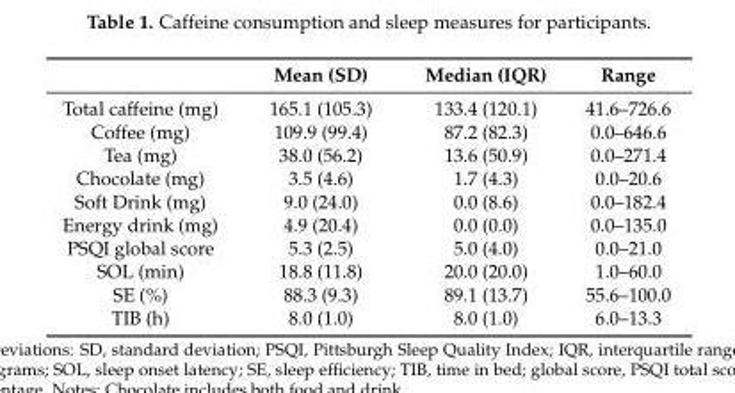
<table><thead><tr><td></td><td>Mean (SD)</td><td>Median (IQR)</td><td>Range</td></tr></thead><tbody><tr><td>Total caffeine (mg)</td><td>165.1 (105.3)</td><td>133.4 (120.1)</td><td>41.6–726.6</td></tr><tr><td>Coffee (mg)</td><td>109.9 (99.4)</td><td>87.2 (82.3)</td><td>0.0–646.6</td></tr><tr><td>Tea (mg)</td><td>38.0 (56.2)</td><td>13.6 (50.9)</td><td>0.0–271.4</td></tr><tr><td>Chocolate (mg)</td><td>3.5 (4.6)</td><td>1.7 (4.3)</td><td>0.0–20.6</td></tr><tr><td>Soft Drink (mg)</td><td>9.0 (24.0)</td><td>0.0 (8.6)</td><td>0.0–182.4</td></tr><tr><td>Energy drink (mg)</td><td>4.9 (20.4)</td><td>0.0 (0.0)</td><td>0.0–135.0</td></tr><tr><td>PSQI global score</td><td>5.3 (2.5)</td><td>5.0 (4.0)</td><td>0.0–21.0</td></tr><tr><td>SOL (min)</td><td>18.8 (11.8)</td><td>20.0 (20.0)</td><td>1.0–60.0</td></tr><tr><td>SE (%)</td><td>88.3 (9.3)</td><td>89.1 (13.7)</td><td>55.6–100.0</td></tr><tr><td>TIB (h)</td><td>8.0 (1.0)</td><td>8.0 (1.0)</td><td>6.0–13.3</td></tr></tbody></table>